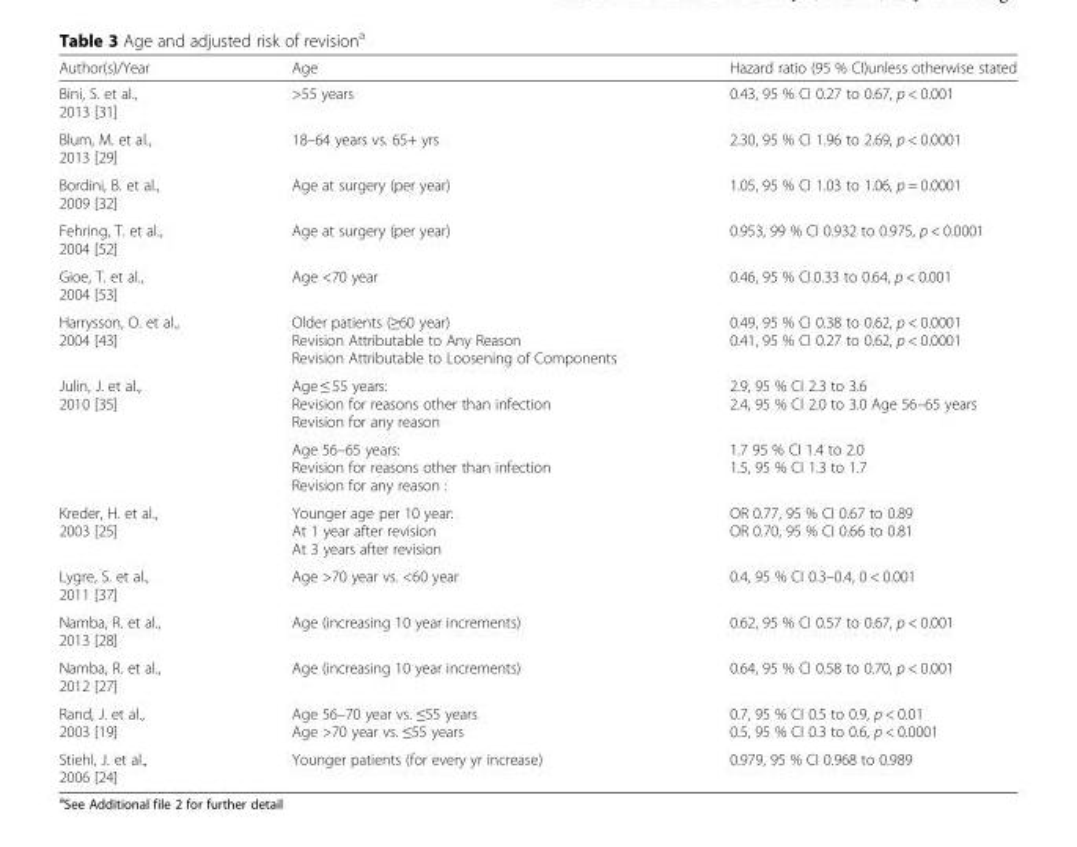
<table><thead><tr><td>Author(s)/Year</td><td>Age</td><td>Hazard ratio (95 % CI)unless otherwise stated</td></tr></thead><tbody><tr><td>Bini, S. et al., 2013 [31]</td><td>&gt;55 years</td><td>0.43, 95 % CI 0.27 to 0.67, p &lt; 0.001</td></tr><tr><td>Blum, M. et al., 2013 [29]</td><td>18–64 years vs. 65+ yrs</td><td>2.30, 95 % CI 1.96 to 2.69, p &lt; 0.0001</td></tr><tr><td>Bordini, B. et al., 2009 [32]</td><td>Age at surgery (per year)</td><td>1.05, 95 % CI 1.03 to 1.06, p = 0.0001</td></tr><tr><td>Fehring, T. et al., 2004 [52]</td><td>Age at surgery (per year)</td><td>0.953, 99 % CI 0.932 to 0.975, p &lt; 0.0001</td></tr><tr><td>Gioe, T. et al., 2004 [53]</td><td>Age &lt;70 year</td><td>0.46, 95 % CI.0.33 to 0.64, p &lt; 0.001</td></tr><tr><td>Harrysson, O. et al., 2004 [43]</td><td>Older patients (≥60 year) Revision Attributable to Any Reason Revision Attributable to Loosening of Components</td><td>0.49, 95 % CI 0.38 to 0.62, p &lt; 0.0001 0.41, 95 % CI 0.27 to 0.62, p &lt; 0.0001</td></tr><tr><td rowspan="2">Julin, J. et al., 2010 [35]</td><td>Age ≤ 55 years: Revision for reasons other than infection Revision for any reason</td><td>2.9, 95 % CI 2.3 to 3.6 2.4, 95 % CI 2.0 to 3.0 Age 56–65 years</td></tr><tr><td>Age 56–65 years: Revision for reasons other than infection Revision for any reason :</td><td>1.7 95 % CI 1.4 to 2.0 1.5, 95 % CI 1.3 to 1.7</td></tr><tr><td>Kreder, H. et al., 2003 [25]</td><td>Younger age per 10 year: At 1 year after revision At 3 years after revision</td><td>OR 0.77, 95 % CI 0.67 to 0.89 OR 0.70, 95 % CI 0.66 to 0.81</td></tr><tr><td>Lygre, S. et al., 2011 [37]</td><td>Age &gt;70 year vs. &lt;60 year</td><td>0.4, 95 % CI 0.3–0.4, 0 &lt; 0.001</td></tr><tr><td>Namba, R. et al., 2013 [28]</td><td>Age (increasing 10 year increments)</td><td>0.62, 95 % CI 0.57 to 0.67, p &lt; 0.001</td></tr><tr><td>Namba, R. et al., 2012 [27]</td><td>Age (increasing 10 year increments)</td><td>0.64, 95 % CI 0.58 to 0.70, p &lt; 0.001</td></tr><tr><td>Rand, J. et al., 2003 [19]</td><td>Age 56–70 year vs. ≤55 years Age &gt;70 year vs. ≤55 years</td><td>0.7, 95 % CI 0.5 to 0.9, p &lt; 0.01 0.5, 95 % CI 0.3 to 0.6, p &lt; 0.0001</td></tr><tr><td>Stiehl, J. et al., 2006 [24]</td><td>Younger patients (for every yr increase)</td><td>0.979, 95 % CI 0.968 to 0.989</td></tr></tbody></table>